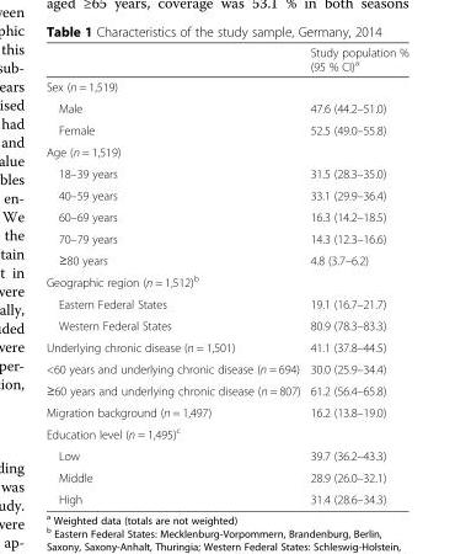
<table><thead><tr><td></td><td>Study population % (95 % CI)<sup>a</sup></td></tr></thead><tbody><tr><td colspan="2">Sex (n = 1,519)</td></tr><tr><td>Male</td><td>47.6 (44.2–51.0)</td></tr><tr><td>Female</td><td>52.5 (49.0–55.8)</td></tr><tr><td colspan="2">Age (n = 1,519)</td></tr><tr><td>18–39 years</td><td>31.5 (28.3–35.0)</td></tr><tr><td>40–59 years</td><td>33.1 (29.9–36.4)</td></tr><tr><td>60–69 years</td><td>16.3 (14.2–18.5)</td></tr><tr><td>70–79 years</td><td>14.3 (12.3–16.6)</td></tr><tr><td>≥80 years</td><td>4.8 (3.7–6.2)</td></tr><tr><td colspan="2">Geographic region (n = 1,512)<sup>b</sup></td></tr><tr><td>Eastern Federal States</td><td>19.1 (16.7–21.7)</td></tr><tr><td>Western Federal States</td><td>80.9 (78.3–83.3)</td></tr><tr><td>Underlying chronic disease (n = 1,501)</td><td>41.1 (37.8–44.5)</td></tr><tr><td>&lt;60 years and underlying chronic disease (n = 694)</td><td>30.0 (25.9–34.4)</td></tr><tr><td>≥60 years and underlying chronic disease (n = 807)</td><td>61.2 (56.4–65.8)</td></tr><tr><td>Migration background (n = 1,497)</td><td>16.2 (13.8–19.0)</td></tr><tr><td colspan="2">Education level (n = 1,495)<sup>c</sup></td></tr><tr><td>Low</td><td>39.7 (36.2–43.3)</td></tr><tr><td>Middle</td><td>28.9 (26.0–32.1)</td></tr><tr><td>High</td><td>31.4 (28.6–34.3)</td></tr></tbody></table>